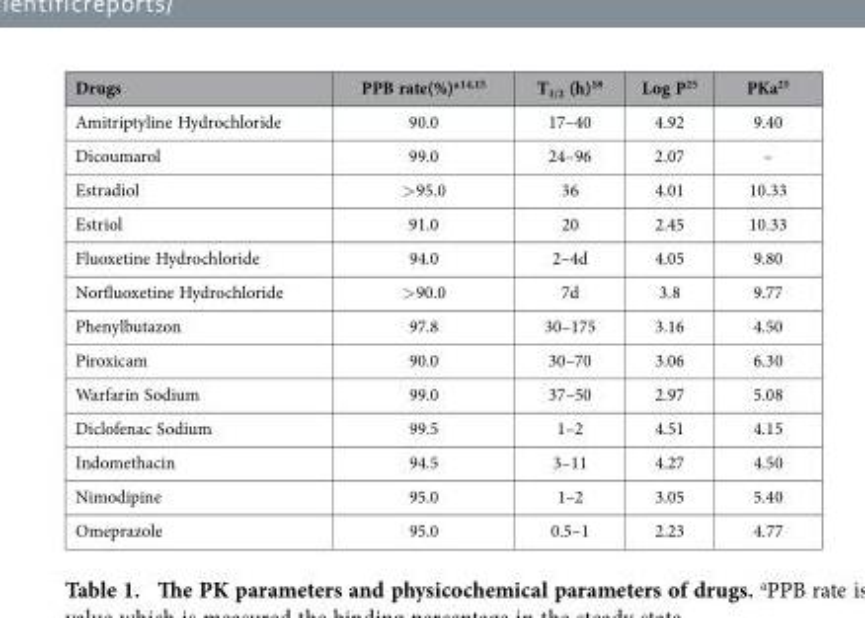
<table><thead><tr><td>Drugs</td><td>PPB rate(%)<sup>a</sup> 14,15</td><td>T<sub>1/2</sub> (h)<sup>18</sup></td><td>Log P<sup>25</sup></td><td>PKa<sup>25</sup></td></tr></thead><tbody><tr><td>Amitriptyline Hydrochloride</td><td>90.0</td><td>17–40</td><td>4.92</td><td>9.40</td></tr><tr><td>Dicoumarol</td><td>99.0</td><td>24–96</td><td>2.07</td><td>–</td></tr><tr><td>Estradiol</td><td>&gt; 95.0</td><td>36</td><td>4.01</td><td>10.33</td></tr><tr><td>Estriol</td><td>91.0</td><td>20</td><td>2.45</td><td>10.33</td></tr><tr><td>Fluoxetine Hydrochloride</td><td>94.0</td><td>2–4d</td><td>4.05</td><td>9.80</td></tr><tr><td>Norfluoxetine Hydrochloride</td><td>&gt; 90.0</td><td>7d</td><td>3.8</td><td>9.77</td></tr><tr><td>Phenylbutazon</td><td>97.8</td><td>30–175</td><td>3.16</td><td>4.50</td></tr><tr><td>Piroxicam</td><td>90.0</td><td>30–70</td><td>3.06</td><td>6.30</td></tr><tr><td>Warfarin Sodium</td><td>99.0</td><td>37–50</td><td>2.97</td><td>5.08</td></tr><tr><td>Diclofenac Sodium</td><td>99.5</td><td>1–2</td><td>4.51</td><td>4.15</td></tr><tr><td>Indomethacin</td><td>94.5</td><td>3–11</td><td>4.27</td><td>4.50</td></tr><tr><td>Nimodipine</td><td>95.0</td><td>1–2</td><td>3.05</td><td>5.40</td></tr><tr><td>Omeprazole</td><td>95.0</td><td>0.5–1</td><td>2.23</td><td>4.77</td></tr></tbody></table>